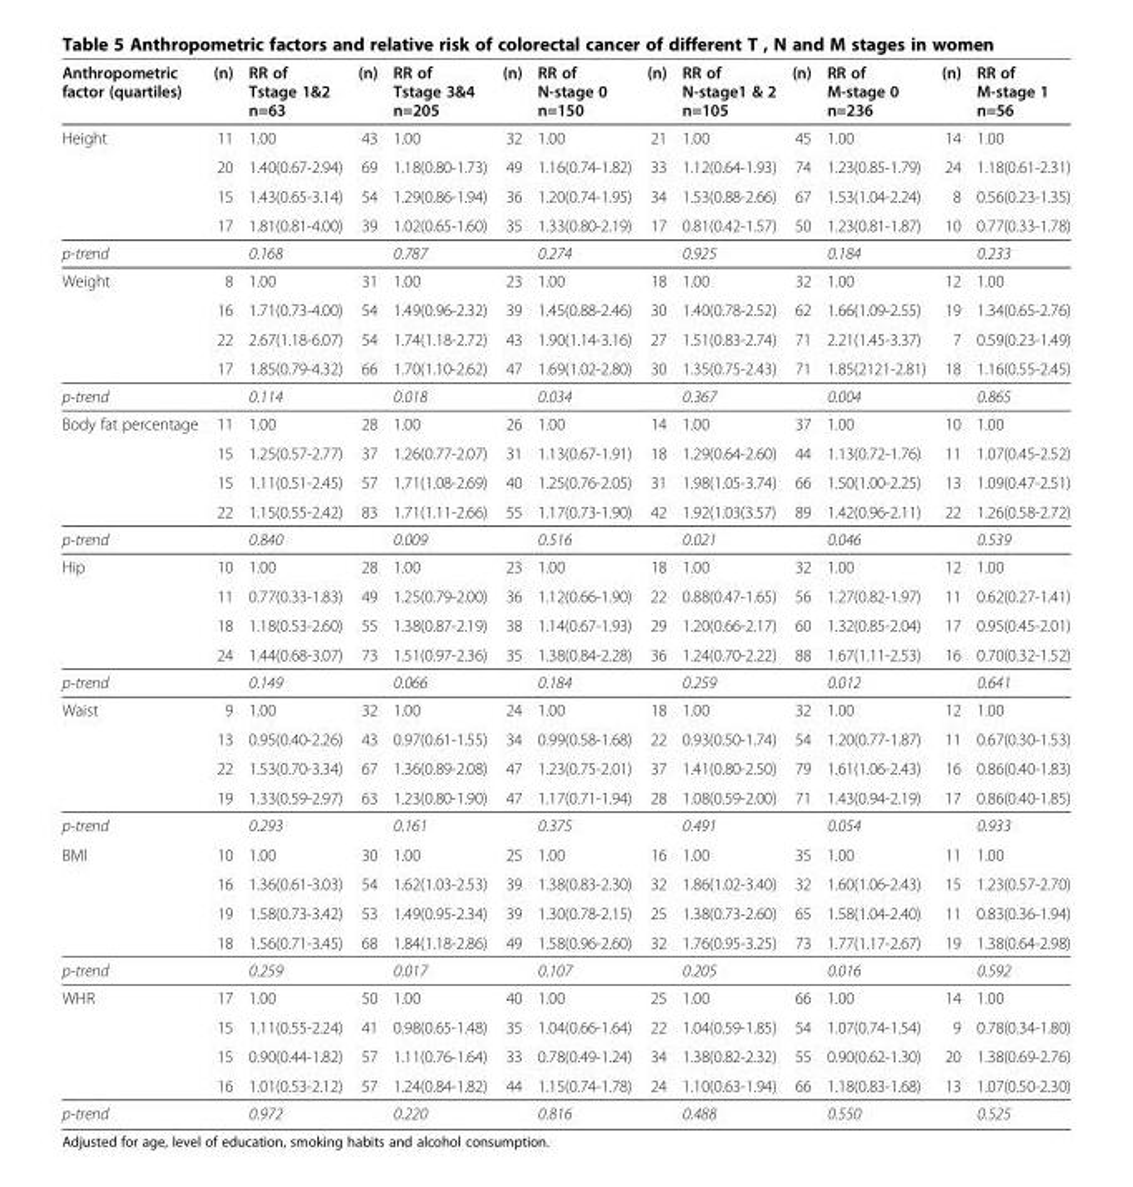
<table><thead><tr><td>Anthropometric factor (quartiles)</td><td>(n)</td><td>RR of Tstage 1&amp;2 n=63</td><td>(n)</td><td>RR of Tstage 3&amp;4 n=205</td><td>(n)</td><td>RR of N-stage 0 n=150</td><td>(n)</td><td>RR of N-stage1 &amp; 2 n=105</td><td>(n)</td><td>RR of M-stage 0 n=236</td><td>(n)</td><td>RR of M-stage 1 n=56</td></tr></thead><tbody><tr><td rowspan="4">Height</td><td>11</td><td>1.00</td><td>43</td><td>1.00</td><td>32</td><td>1.00</td><td>21</td><td>1.00</td><td>45</td><td>1.00</td><td>14</td><td>1.00</td></tr><tr><td>20</td><td>1.40(0.67-2.94)</td><td>69</td><td>1.18(0.80-1.73)</td><td>49</td><td>1.16(0.74-1.82)</td><td>33</td><td>1.12(0.64-1.93)</td><td>74</td><td>1.23(0.85-1.79)</td><td>24</td><td>1.18(0.61-2.31)</td></tr><tr><td>15</td><td>1.43(0.65-3.14)</td><td>54</td><td>1.29(0.86-1.94)</td><td>36</td><td>1.20(0.74-1.95)</td><td>34</td><td>1.53(0.88-2.66)</td><td>67</td><td>1.53(1.04-2.24)</td><td>8</td><td>0.56(0.23-1.35)</td></tr><tr><td>17</td><td>1.81(0.81-4.00)</td><td>39</td><td>1.02(0.65-1.60)</td><td>35</td><td>1.33(0.80-2.19)</td><td>17</td><td>0.81(0.42-1.57)</td><td>50</td><td>1.23(0.81-1.87)</td><td>10</td><td>0.77(0.33-1.78)</td></tr><tr><td>p-trend</td><td></td><td>0.168</td><td></td><td>0.787</td><td></td><td>0.274</td><td></td><td>0.925</td><td></td><td>0.184</td><td></td><td>0.233</td></tr><tr><td rowspan="4">Weight</td><td>8</td><td>1.00</td><td>31</td><td>1.00</td><td>23</td><td>1.00</td><td>18</td><td>1.00</td><td>32</td><td>1.00</td><td>12</td><td>1.00</td></tr><tr><td>16</td><td>1.71(0.73-4.00)</td><td>54</td><td>1.49(0.96-2.32)</td><td>39</td><td>1.45(0.88-2.46)</td><td>30</td><td>1.40(0.78-2.52)</td><td>62</td><td>1.66(1.09-2.55)</td><td>19</td><td>1.34(0.65-2.76)</td></tr><tr><td>22</td><td>2.67(1.18-6.07)</td><td>54</td><td>1.74(1.18-2.72)</td><td>43</td><td>1.90(1.14-3.16)</td><td>27</td><td>1.51(0.83-2.74)</td><td>71</td><td>2.21(1.45-3.37)</td><td>7</td><td>0.59(0.23-1.49)</td></tr><tr><td>17</td><td>1.85(0.79-4.32)</td><td>66</td><td>1.70(1.10-2.62)</td><td>47</td><td>1.69(1.02-2.80)</td><td>30</td><td>1.35(0.75-2.43)</td><td>71</td><td>1.85(2121-2.81)</td><td>18</td><td>1.16(0.55-2.45)</td></tr><tr><td>p-trend</td><td></td><td>0.114</td><td></td><td>0.018</td><td></td><td>0.034</td><td></td><td>0.367</td><td></td><td>0.004</td><td></td><td>0.865</td></tr><tr><td rowspan="4">Body fat percentage</td><td>11</td><td>1.00</td><td>28</td><td>1.00</td><td>26</td><td>1.00</td><td>14</td><td>1.00</td><td>37</td><td>1.00</td><td>10</td><td>1.00</td></tr><tr><td>15</td><td>1.25(0.57-2.77)</td><td>37</td><td>1.26(0.77-2.07)</td><td>31</td><td>1.13(0.67-1.91)</td><td>18</td><td>1.29(0.64-2.60)</td><td>44</td><td>1.13(0.72-1.76)</td><td>11</td><td>1.07(0.45-2.52)</td></tr><tr><td>15</td><td>1.11(0.51-2.45)</td><td>57</td><td>1.71(1.08-2.69)</td><td>40</td><td>1.25(0.76-2.05)</td><td>31</td><td>1.98(1.05-3.74)</td><td>66</td><td>1.50(1.00-2.25)</td><td>13</td><td>1.09(0.47-2.51)</td></tr><tr><td>22</td><td>1.15(0.55-2.42)</td><td>83</td><td>1.71(1.11-2.66)</td><td>55</td><td>1.17(0.73-1.90)</td><td>42</td><td>1.92(1.03(3.57)</td><td>89</td><td>1.42(0.96-2.11)</td><td>22</td><td>1.26(0.58-2.72)</td></tr><tr><td>p-trend</td><td></td><td>0.840</td><td></td><td>0.009</td><td></td><td>0.516</td><td></td><td>0.021</td><td></td><td>0.046</td><td></td><td>0.539</td></tr><tr><td rowspan="4">Hip</td><td>10</td><td>1.00</td><td>28</td><td>1.00</td><td>23</td><td>1.00</td><td>18</td><td>1.00</td><td>32</td><td>1.00</td><td>12</td><td>1.00</td></tr><tr><td>11</td><td>0.77(0.33-1.83)</td><td>49</td><td>1.25(0.79-2.00)</td><td>36</td><td>1.12(0.66-1.90)</td><td>22</td><td>0.88(0.47-1.65)</td><td>56</td><td>1.27(0.82-1.97)</td><td>11</td><td>0.62(0.27-1.41)</td></tr><tr><td>18</td><td>1.18(0.53-2.60)</td><td>55</td><td>1.38(0.87-2.19)</td><td>38</td><td>1.14(0.67-1.93)</td><td>29</td><td>1.20(0.66-2.17)</td><td>60</td><td>1.32(0.85-2.04)</td><td>17</td><td>0.95(0.45-2.01)</td></tr><tr><td>24</td><td>1.44(0.68-3.07)</td><td>73</td><td>1.51(0.97-2.36)</td><td>35</td><td>1.38(0.84-2.28)</td><td>36</td><td>1.24(0.70-2.22)</td><td>88</td><td>1.67(1.11-2.53)</td><td>16</td><td>0.70(0.32-1.52)</td></tr><tr><td>p-trend</td><td></td><td>0.149</td><td></td><td>0.066</td><td></td><td>0.184</td><td></td><td>0.259</td><td></td><td>0.012</td><td></td><td>0.641</td></tr><tr><td rowspan="4">Waist</td><td>9</td><td>1.00</td><td>32</td><td>1.00</td><td>24</td><td>1.00</td><td>18</td><td>1.00</td><td>32</td><td>1.00</td><td>12</td><td>1.00</td></tr><tr><td>13</td><td>0.95(0.40-2.26)</td><td>43</td><td>0.97(0.61-1.55)</td><td>34</td><td>0.99(0.58-1.68)</td><td>22</td><td>0.93(0.50-1.74)</td><td>54</td><td>1.20(0.77-1.87)</td><td>11</td><td>0.67(0.30-1.53)</td></tr><tr><td>22</td><td>1.53(0.70-3.34)</td><td>67</td><td>1.36(0.89-2.08)</td><td>47</td><td>1.23(0.75-2.01)</td><td>37</td><td>1.41(0.80-2.50)</td><td>79</td><td>1.61(1.06-2.43)</td><td>16</td><td>0.86(0.40-1.83)</td></tr><tr><td>19</td><td>1.33(0.59-2.97)</td><td>63</td><td>1.23(0.80-1.90)</td><td>47</td><td>1.17(0.71-1.94)</td><td>28</td><td>1.08(0.59-2.00)</td><td>71</td><td>1.43(0.94-2.19)</td><td>17</td><td>0.86(0.40-1.85)</td></tr><tr><td>p-trend</td><td></td><td>0.293</td><td></td><td>0.161</td><td></td><td>0.375</td><td></td><td>0.491</td><td></td><td>0.054</td><td></td><td>0.933</td></tr><tr><td rowspan="4">BMI</td><td>10</td><td>1.00</td><td>30</td><td>1.00</td><td>25</td><td>1.00</td><td>16</td><td>1.00</td><td>35</td><td>1.00</td><td>11</td><td>1.00</td></tr><tr><td>16</td><td>1.36(0.61-3.03)</td><td>54</td><td>1.62(1.03-2.53)</td><td>39</td><td>1.38(0.83-2.30)</td><td>32</td><td>1.86(1.02-3.40)</td><td>32</td><td>1.60(1.06-2.43)</td><td>15</td><td>1.23(0.57-2.70)</td></tr><tr><td>19</td><td>1.58(0.73-3.42)</td><td>53</td><td>1.49(0.95-2.34)</td><td>39</td><td>1.30(0.78-2.15)</td><td>25</td><td>1.38(0.73-2.60)</td><td>65</td><td>1.58(1.04-2.40)</td><td>11</td><td>0.83(0.36-1.94)</td></tr><tr><td>18</td><td>1.56(0.71-3.45)</td><td>68</td><td>1.84(1.18-2.86)</td><td>49</td><td>1.58(0.96-2.60)</td><td>32</td><td>1.76(0.95-3.25)</td><td>73</td><td>1.77(1.17-2.67)</td><td>19</td><td>1.38(0.64-2.98)</td></tr><tr><td>p-trend</td><td></td><td>0.259</td><td></td><td>0.017</td><td></td><td>0.107</td><td></td><td>0.205</td><td></td><td>0.016</td><td></td><td>0.592</td></tr><tr><td rowspan="4">WHR</td><td>17</td><td>1.00</td><td>50</td><td>1.00</td><td>40</td><td>1.00</td><td>25</td><td>1.00</td><td>66</td><td>1.00</td><td>14</td><td>1.00</td></tr><tr><td>15</td><td>1.11(0.55-2.24)</td><td>41</td><td>0.98(0.65-1.48)</td><td>35</td><td>1.04(0.66-1.64)</td><td>22</td><td>1.04(0.59-1.85)</td><td>54</td><td>1.07(0.74-1.54)</td><td>9</td><td>0.78(0.34-1.80)</td></tr><tr><td>15</td><td>0.90(0.44-1.82)</td><td>57</td><td>1.11(0.76-1.64)</td><td>33</td><td>0.78(0.49-1.24)</td><td>34</td><td>1.38(0.82-2.32)</td><td>55</td><td>0.90(0.62-1.30)</td><td>20</td><td>1.38(0.69-2.76)</td></tr><tr><td>16</td><td>1.01(0.53-2.12)</td><td>57</td><td>1.24(0.84-1.82)</td><td>44</td><td>1.15(0.74-1.78)</td><td>24</td><td>1.10(0.63-1.94)</td><td>66</td><td>1.18(0.83-1.68)</td><td>13</td><td>1.07(0.50-2.30)</td></tr><tr><td>p-trend</td><td></td><td>0.972</td><td></td><td>0.220</td><td></td><td>0.816</td><td></td><td>0.488</td><td></td><td>0.550</td><td></td><td>0.525</td></tr></tbody></table>